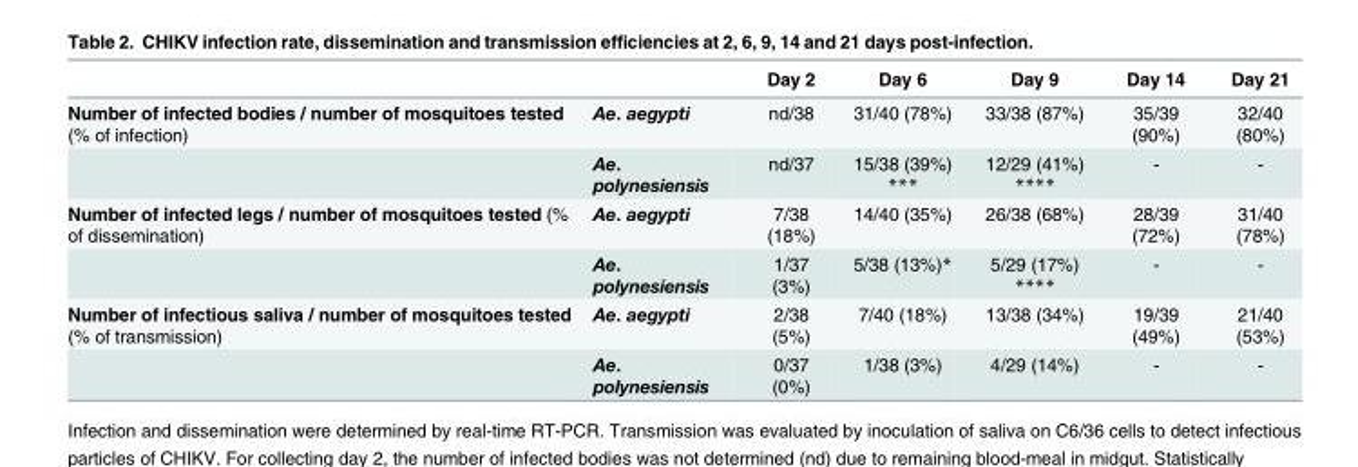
<table><thead><tr><td></td><td></td><td>Day 2</td><td>Day 6</td><td>Day 9</td><td>Day 14</td><td>Day 21</td></tr></thead><tbody><tr><td rowspan="2">Number of infected bodies / number of mosquitoes tested (% of infection)</td><td>Ae. aegypti</td><td>nd/38</td><td>31/40 (78%)</td><td>33/38 (87%)</td><td>35/39 (90%)</td><td>32/40 (80%)</td></tr><tr><td>Ae. polynesiensis</td><td>nd/37</td><td>15/38 (39%) ***</td><td>12/29 (41%) ****</td><td>-</td><td>-</td></tr><tr><td rowspan="2">Number of infected legs / number of mosquitoes tested (% of dissemination)</td><td>Ae. aegypti</td><td>7/38 (18%)</td><td>14/40 (35%)</td><td>26/38 (68%)</td><td>28/39 (72%)</td><td>31/40 (78%)</td></tr><tr><td>Ae. polynesiensis</td><td>1/37 (3%)</td><td>5/38 (13%)*</td><td>5/29 (17%) ****</td><td>-</td><td>-</td></tr><tr><td rowspan="2">Number of infectious saliva / number of mosquitoes tested (% of transmission)</td><td>Ae. aegypti</td><td>2/38 (5%)</td><td>7/40 (18%)</td><td>13/38 (34%)</td><td>19/39 (49%)</td><td>21/40 (53%)</td></tr><tr><td>Ae. polynesiensis</td><td>0/37 (0%)</td><td>1/38 (3%)</td><td>4/29 (14%)</td><td>-</td><td>-</td></tr></tbody></table>